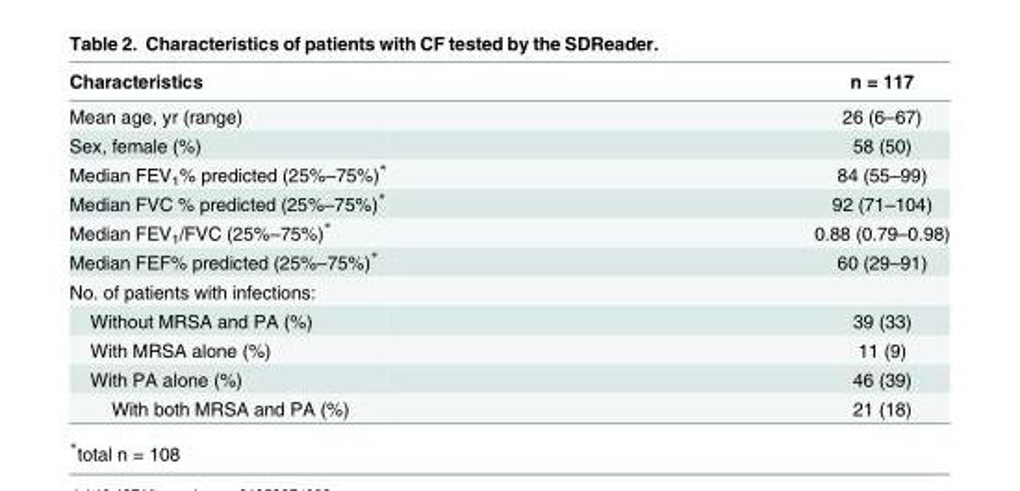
<table><thead><tr><td>Characteristics</td><td>n = 117</td></tr></thead><tbody><tr><td>Mean age, yr (range)</td><td>26 (6–67)</td></tr><tr><td>Sex, female (%)</td><td>58 (50)</td></tr><tr><td>Median FEV<sub>1</sub>% predicted (25%–75%)*</td><td>84 (55–99)</td></tr><tr><td>Median FVC % predicted (25%–75%)*</td><td>92 (71–104)</td></tr><tr><td>Median FEV<sub>1</sub>/FVC (25%–75%)*</td><td>0.88 (0.79–0.98)</td></tr><tr><td>Median FEF% predicted (25%–75%)*</td><td>60 (29–91)</td></tr><tr><td colspan="2">No. of patients with infections:</td></tr><tr><td>Without MRSA and PA (%)</td><td>39 (33)</td></tr><tr><td>With MRSA alone (%)</td><td>11 (9)</td></tr><tr><td>With PA alone (%)</td><td>46 (39)</td></tr><tr><td>With both MRSA and PA (%)</td><td>21 (18)</td></tr></tbody></table>